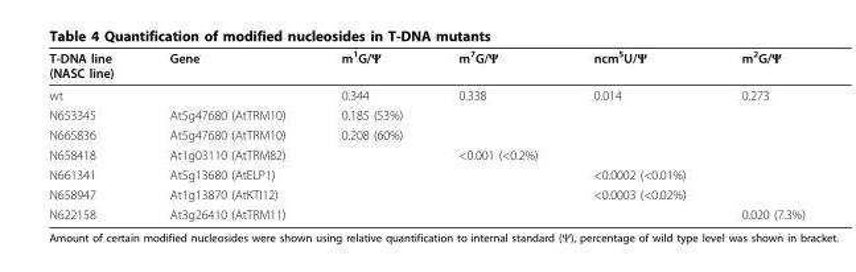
<table><thead><tr><td>T-DNA line (NASC line)</td><td>Gene</td><td>m<sup>1</sup>G/Ψ</td><td>m<sup>7</sup>G/Ψ</td><td>ncm<sup>5</sup>U/Ψ</td><td>m<sup>2</sup>G/Ψ</td></tr></thead><tbody><tr><td>wt</td><td></td><td>0.344</td><td>0.338</td><td>0.014</td><td>0.273</td></tr><tr><td>N653345</td><td>At5g47680 (AtTRM10)</td><td>0.185 (53%)</td><td></td><td></td><td></td></tr><tr><td>N665836</td><td>At5g47680 (AtTRM10)</td><td>0.208 (60%)</td><td></td><td></td><td></td></tr><tr><td>N658418</td><td>At1g03110 (AtTRM82)</td><td></td><td>&lt;0.001 (&lt;0.2%)</td><td></td><td></td></tr><tr><td>N661341</td><td>At5g13680 (AtELP1)</td><td></td><td></td><td>&lt;0.0002 (&lt;0.01%)</td><td></td></tr><tr><td>N658947</td><td>At1g13870 (AtKTI12)</td><td></td><td></td><td>&lt;0.0003 (&lt;0.02%)</td><td></td></tr><tr><td>N622158</td><td>At3g26410 (AtTRM11)</td><td></td><td></td><td></td><td>0.020 (7.3%)</td></tr></tbody></table>